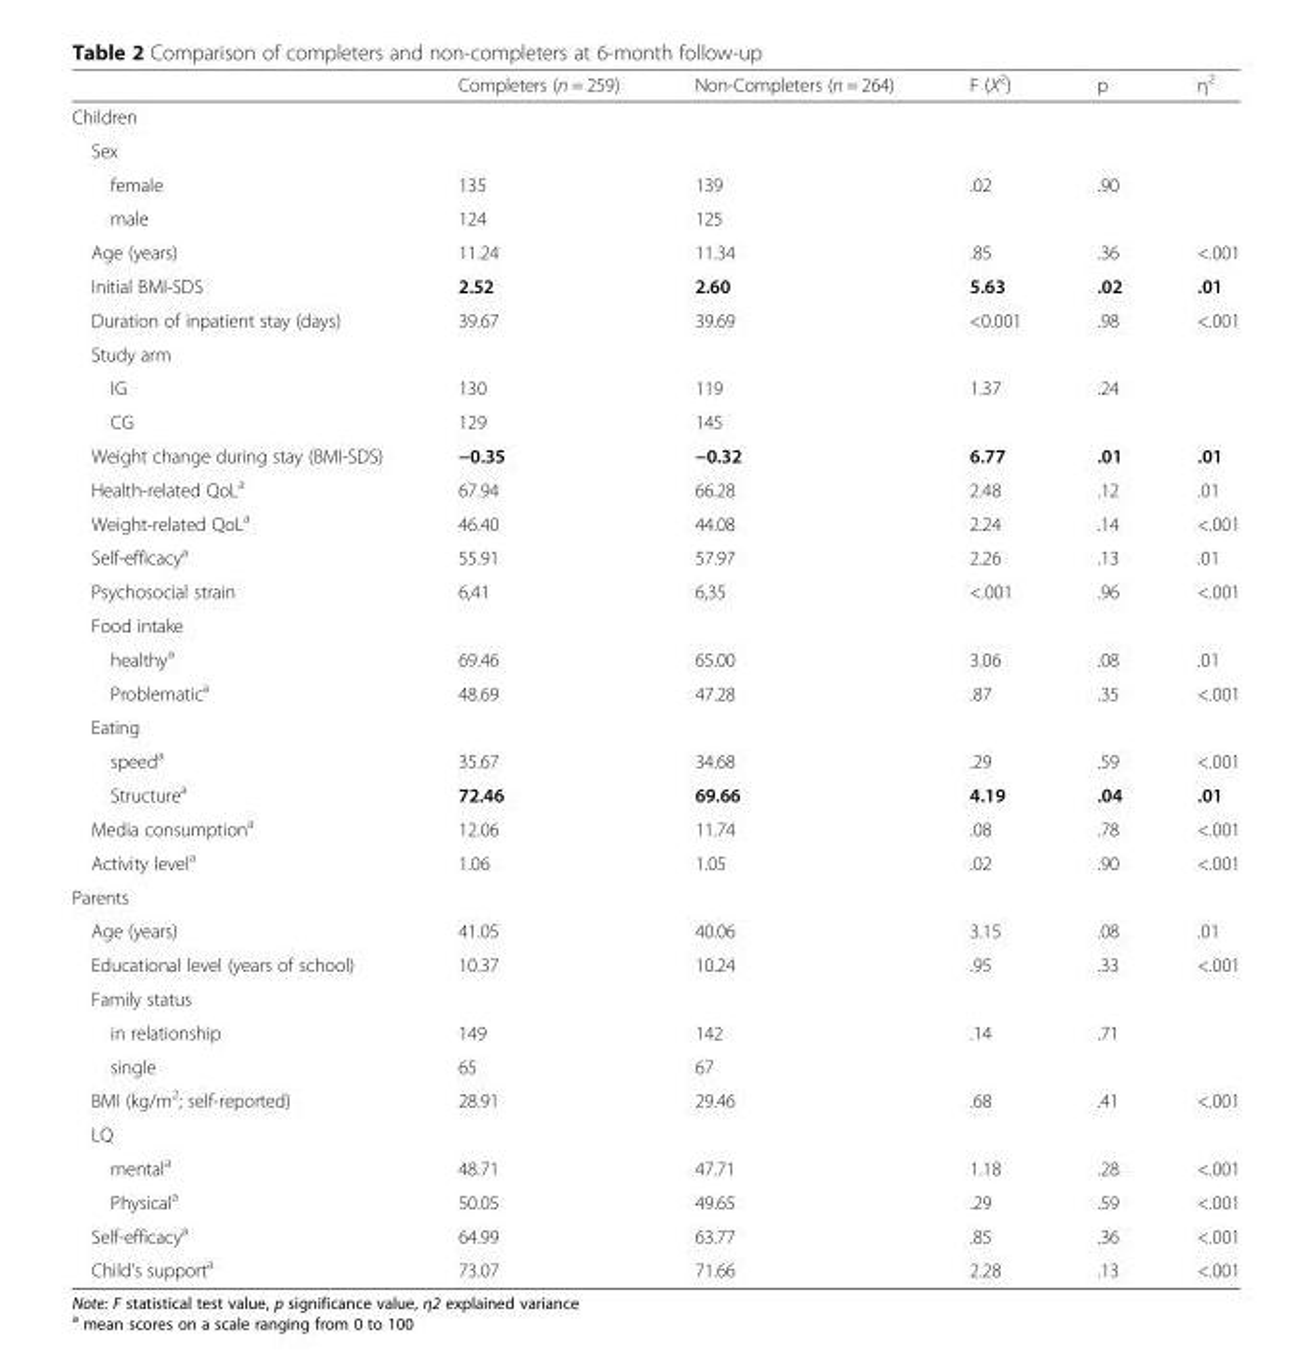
<table><thead><tr><td></td><td>Completers (n = 259)</td><td>Non-Completers (n = 264)</td><td>F (X<sup>2</sup>)</td><td>p</td><td>η<sup>2</sup></td></tr></thead><tbody><tr><td colspan="6">Children</td></tr><tr><td colspan="6">Sex</td></tr><tr><td>female</td><td>135</td><td>139</td><td>.02</td><td>.90</td><td></td></tr><tr><td>male</td><td>124</td><td>125</td><td></td><td></td><td></td></tr><tr><td>Age (years)</td><td>11.24</td><td>11.34</td><td>.85</td><td>.36</td><td>&lt;.001</td></tr><tr><td>Initial BMI-SDS</td><td>2.52</td><td>2.60</td><td>5.63</td><td>.02</td><td>.01</td></tr><tr><td>Duration of inpatient stay (days)</td><td>39.67</td><td>39.69</td><td>&lt;0.001</td><td>.98</td><td>&lt;.001</td></tr><tr><td colspan="6">Study arm</td></tr><tr><td>IG</td><td>130</td><td>119</td><td>1.37</td><td>.24</td><td></td></tr><tr><td>CG</td><td>129</td><td>145</td><td></td><td></td><td></td></tr><tr><td>Weight change during stay (BMI-SDS)</td><td>−0.35</td><td>−0.32</td><td>6.77</td><td>.01</td><td>.01</td></tr><tr><td>Health-related QoL<sup>a</sup></td><td>67.94</td><td>66.28</td><td>2.48</td><td>.12</td><td>.01</td></tr><tr><td>Weight-related QoL<sup>a</sup></td><td>46.40</td><td>44.08</td><td>2.24</td><td>.14</td><td>&lt;.001</td></tr><tr><td>Self-efficacy<sup>a</sup></td><td>55.91</td><td>57.97</td><td>2.26</td><td>.13</td><td>.01</td></tr><tr><td>Psychosocial strain</td><td>6,41</td><td>6,35</td><td>&lt;.001</td><td>.96</td><td>&lt;.001</td></tr><tr><td colspan="6">Food intake</td></tr><tr><td>healthy<sup>a</sup></td><td>69.46</td><td>65.00</td><td>3.06</td><td>.08</td><td>.01</td></tr><tr><td>Problematic<sup>a</sup></td><td>48.69</td><td>47.28</td><td>.87</td><td>.35</td><td>&lt;.001</td></tr><tr><td colspan="6">Eating</td></tr><tr><td>speed<sup>a</sup></td><td>35.67</td><td>34.68</td><td>.29</td><td>.59</td><td>&lt;.001</td></tr><tr><td>Structure<sup>a</sup></td><td>72.46</td><td>69.66</td><td>4.19</td><td>.04</td><td>.01</td></tr><tr><td>Media consumption<sup>a</sup></td><td>12.06</td><td>11.74</td><td>.08</td><td>.78</td><td>&lt;.001</td></tr><tr><td>Activity level<sup>a</sup></td><td>1.06</td><td>1.05</td><td>.02</td><td>.90</td><td>&lt;.001</td></tr><tr><td colspan="6">Parents</td></tr><tr><td>Age (years)</td><td>41.05</td><td>40.06</td><td>3.15</td><td>.08</td><td>.01</td></tr><tr><td>Educational level (years of school)</td><td>10.37</td><td>10.24</td><td>.95</td><td>.33</td><td>&lt;.001</td></tr><tr><td colspan="6">Family status</td></tr><tr><td>in relationship</td><td>149</td><td>142</td><td>.14</td><td>.71</td><td></td></tr><tr><td>single</td><td>65</td><td>67</td><td></td><td></td><td></td></tr><tr><td>BMI (kg/m<sup>2</sup>; self-reported)</td><td>28.91</td><td>29.46</td><td>.68</td><td>.41</td><td>&lt;.001</td></tr><tr><td colspan="6">LQ</td></tr><tr><td>mental<sup>a</sup></td><td>48.71</td><td>47.71</td><td>1.18</td><td>.28</td><td>&lt;.001</td></tr><tr><td>Physical<sup>a</sup></td><td>50.05</td><td>49.65</td><td>.29</td><td>.59</td><td>&lt;.001</td></tr><tr><td>Self-efficacy<sup>a</sup></td><td>64.99</td><td>63.77</td><td>.85</td><td>.36</td><td>&lt;.001</td></tr><tr><td>Child’s support<sup>a</sup></td><td>73.07</td><td>71.66</td><td>2.28</td><td>.13</td><td>&lt;.001</td></tr></tbody></table>